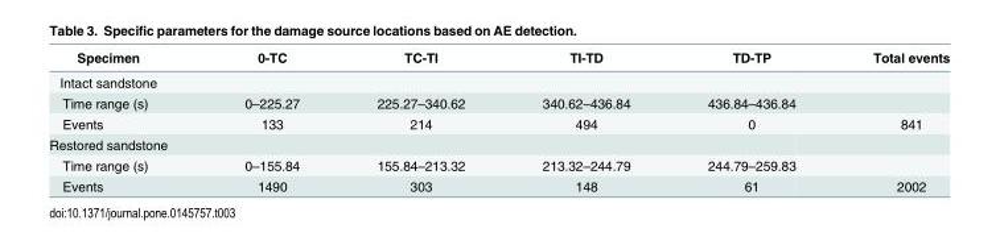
<table><thead><tr><td>Specimen</td><td>0-TC</td><td>TC-TI</td><td>TI-TD</td><td>TD-TP</td><td>Total events</td></tr></thead><tbody><tr><td colspan="6">Intact sandstone</td></tr><tr><td>Time range (s)</td><td>0–225.27</td><td>225.27–340.62</td><td>340.62–436.84</td><td>436.84–436.84</td><td></td></tr><tr><td>Events</td><td>133</td><td>214</td><td>494</td><td>0</td><td>841</td></tr><tr><td colspan="6">Restored sandstone</td></tr><tr><td>Time range (s)</td><td>0–155.84</td><td>155.84–213.32</td><td>213.32–244.79</td><td>244.79–259.83</td><td></td></tr><tr><td>Events</td><td>1490</td><td>303</td><td>148</td><td>61</td><td>2002</td></tr></tbody></table>